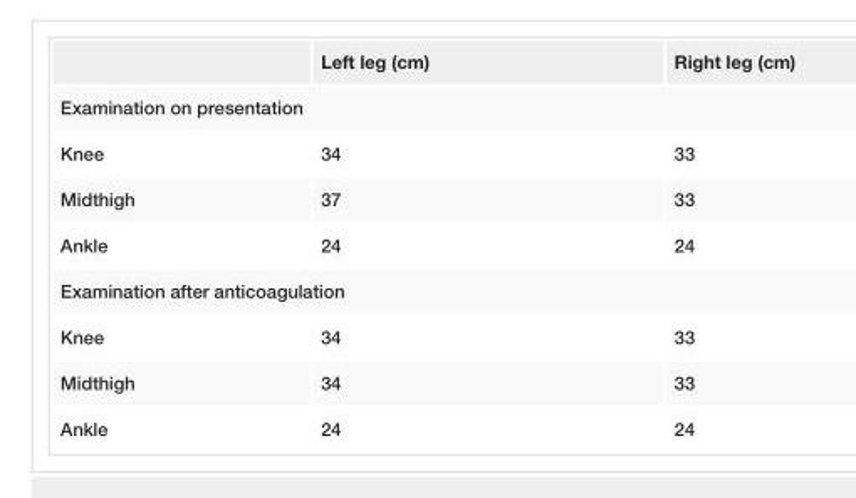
<table><thead><tr><td></td><td>Left leg (cm)</td><td>Right leg (cm)</td></tr></thead><tbody><tr><td colspan="3">Examination on presentation</td></tr><tr><td>Knee</td><td>34</td><td>33</td></tr><tr><td>Midthigh</td><td>37</td><td>33</td></tr><tr><td>Ankle</td><td>24</td><td>24</td></tr><tr><td colspan="3">Examination after anticoagulation</td></tr><tr><td>Knee</td><td>34</td><td>33</td></tr><tr><td>Midthigh</td><td>34</td><td>33</td></tr><tr><td>Ankle</td><td>24</td><td>24</td></tr></tbody></table>